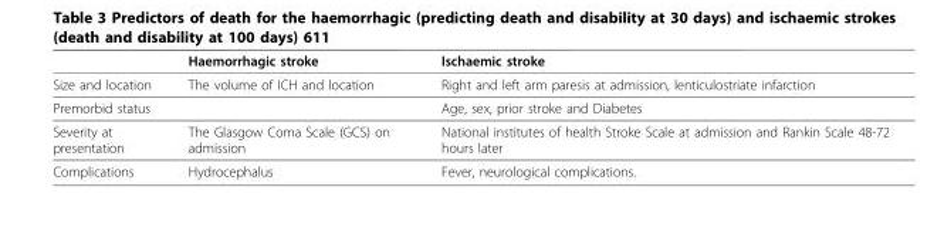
<table><thead><tr><td></td><td>Haemorrhagic stroke</td><td>Ischaemic stroke</td></tr></thead><tbody><tr><td>Size and location</td><td>The volume of ICH and location</td><td>Right and left arm paresis at admission, lenticulostriate infarction</td></tr><tr><td>Premorbid status</td><td></td><td>Age, sex, prior stroke and Diabetes</td></tr><tr><td>Severity at presentation</td><td>The Glasgow Coma Scale (GCS) on admission</td><td>National institutes of health Stroke Scale at admission and Rankin Scale 48-72 hours later</td></tr><tr><td>Complications</td><td>Hydrocephalus</td><td>Fever, neurological complications.</td></tr></tbody></table>